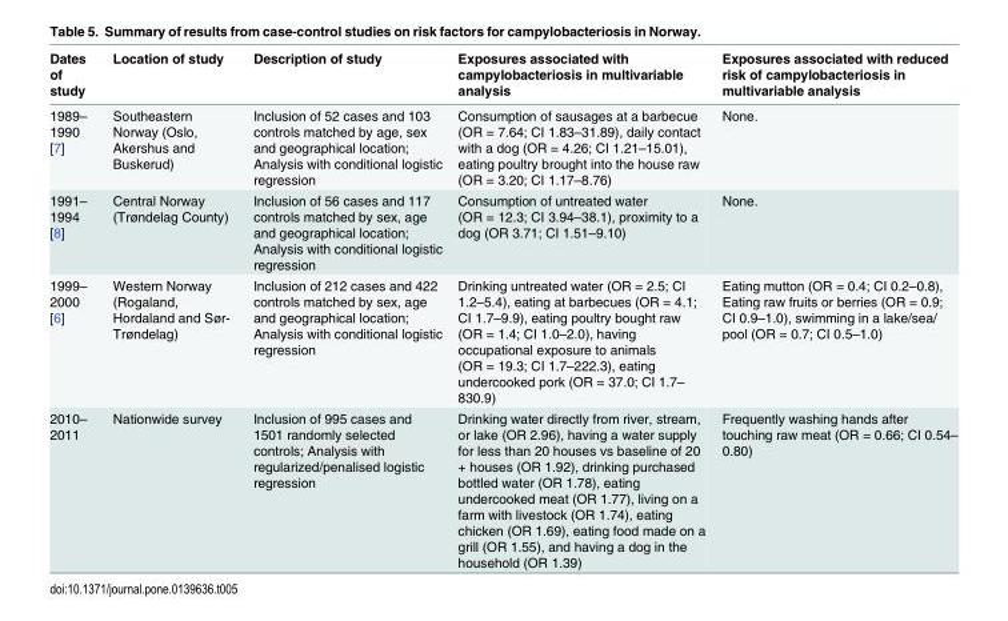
<table><thead><tr><td>Dates of study</td><td>Location of study</td><td>Description of study</td><td>Exposures associated with campylobacteriosis in multivariable analysis</td><td>Exposures associated with reduced risk of campylobacteriosis in multivariable analysis</td></tr></thead><tbody><tr><td>1989– 1990 [7]</td><td>Southeastern Norway (Oslo, Akershus and Buskerud)</td><td>Inclusion of 52 cases and 103 controls matched by age, sex and geographical location; Analysis with conditional logistic regression</td><td>Consumption of sausages at a barbecue (OR = 7.64; CI 1.83–31.89), daily contact with a dog (OR = 4.26; CI 1.21–15.01), eating poultry brought into the house raw (OR = 3.20; CI 1.17–8.76)</td><td>None.</td></tr><tr><td>1991– 1994 [8]</td><td>Central Norway (Trøndelag County)</td><td>Inclusion of 56 cases and 117 controls matched by sex, age and geographical location; Analysis with conditional logistic regression</td><td>Consumption of untreated water (OR = 12.3; CI 3.94–38.1), proximity to a dog (OR 3.71; CI 1.51–9.10)</td><td>None.</td></tr><tr><td>1999– 2000 [6]</td><td>Western Norway (Rogaland, Hordaland and Sør- Trøndelag)</td><td>Inclusion of 212 cases and 422 controls matched by sex, age and geographical location; Analysis with conditional logistic regression</td><td>Drinking untreated water (OR = 2.5; CI 1.2–5.4), eating at barbecues (OR = 4.1; CI 1.7–9.9), eating poultry bought raw (OR = 1.4; CI 1.0–2.0), having occupational exposure to animals (OR = 19.3; CI 1.7–222.3), eating undercooked pork (OR = 37.0; CI 1.7– 830.9)</td><td>Eating mutton (OR = 0.4; CI 0.2–0.8), Eating raw fruits or berries (OR = 0.9; CI 0.9–1.0), swimming in a lake/sea/ pool (OR = 0.7; CI 0.5–1.0)</td></tr><tr><td>2010– 2011</td><td>Nationwide survey</td><td>Inclusion of 995 cases and 1501 randomly selected controls; Analysis with regularized/penalised logistic regression</td><td>Drinking water directly from river, stream, or lake (OR 2.96), having a water supply for less than 20 houses vs baseline of 20 + houses (OR 1.92), drinking purchased bottled water (OR 1.78), eating undercooked meat (OR 1.77), living on a farm with livestock (OR 1.74), eating chicken (OR 1.69), eating food made on a grill (OR 1.55), and having a dog in the household (OR 1.39)</td><td>Frequently washing hands after touching raw meat (OR = 0.66; CI 0.54– 0.80)</td></tr></tbody></table>